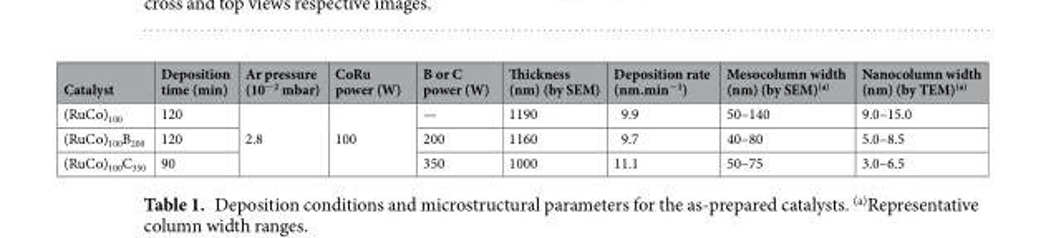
<table><thead><tr><td>Catalyst</td><td>Deposition time (min)</td><td>Ar pressure (10<sup>−2</sup> mbar)</td><td>CoRu power (W)</td><td>B or C power (W)</td><td>Thickness (nm) (by SEM)</td><td>Deposition rate (nm.min<sup>−1</sup>)</td><td>Mesocolumn width (nm) (by SEM)<sup>(a)</sup></td><td>Nanocolumn width (nm) (by TEM)<sup>(a)</sup></td></tr></thead><tbody><tr><td>(RuCo)<sub>100</sub></td><td>120</td><td rowspan="3">2.8</td><td rowspan="3">100</td><td>—</td><td>1190</td><td>9.9</td><td>50–140</td><td>9.0–15.0</td></tr><tr><td>(RuCo)<sub>100</sub>B<sub>200</sub></td><td>120</td><td>200</td><td>1160</td><td>9.7</td><td>40–80</td><td>5.0–8.5</td></tr><tr><td>(RuCo)<sub>100</sub>C<sub>350</sub></td><td>90</td><td>350</td><td>1000</td><td>11.1</td><td>50–75</td><td>3.0–6.5</td></tr></tbody></table>